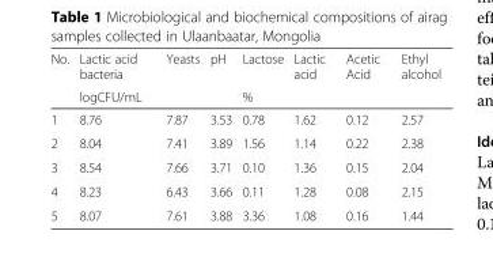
<table><thead><tr><td rowspan="2">No.</td><td>Lactic acid bacteria</td><td>Yeasts</td><td rowspan="2">pH</td><td>Lactose</td><td>Lactic acid</td><td>Acetic Acid</td><td>Ethyl alcohol</td></tr><tr><td colspan="2">logCFU/mL</td><td colspan="4">%</td></tr></thead><tbody><tr><td>1</td><td>8.76</td><td>7.87</td><td>3.53</td><td>0.78</td><td>1.62</td><td>0.12</td><td>2.57</td></tr><tr><td>2</td><td>8.04</td><td>7.41</td><td>3.89</td><td>1.56</td><td>1.14</td><td>0.22</td><td>2.38</td></tr><tr><td>3</td><td>8.54</td><td>7.66</td><td>3.71</td><td>0.10</td><td>1.36</td><td>0.15</td><td>2.04</td></tr><tr><td>4</td><td>8.23</td><td>6.43</td><td>3.66</td><td>0.11</td><td>1.28</td><td>0.08</td><td>2.15</td></tr><tr><td>5</td><td>8.07</td><td>7.61</td><td>3.88</td><td>3.36</td><td>1.08</td><td>0.16</td><td>1.44</td></tr></tbody></table>